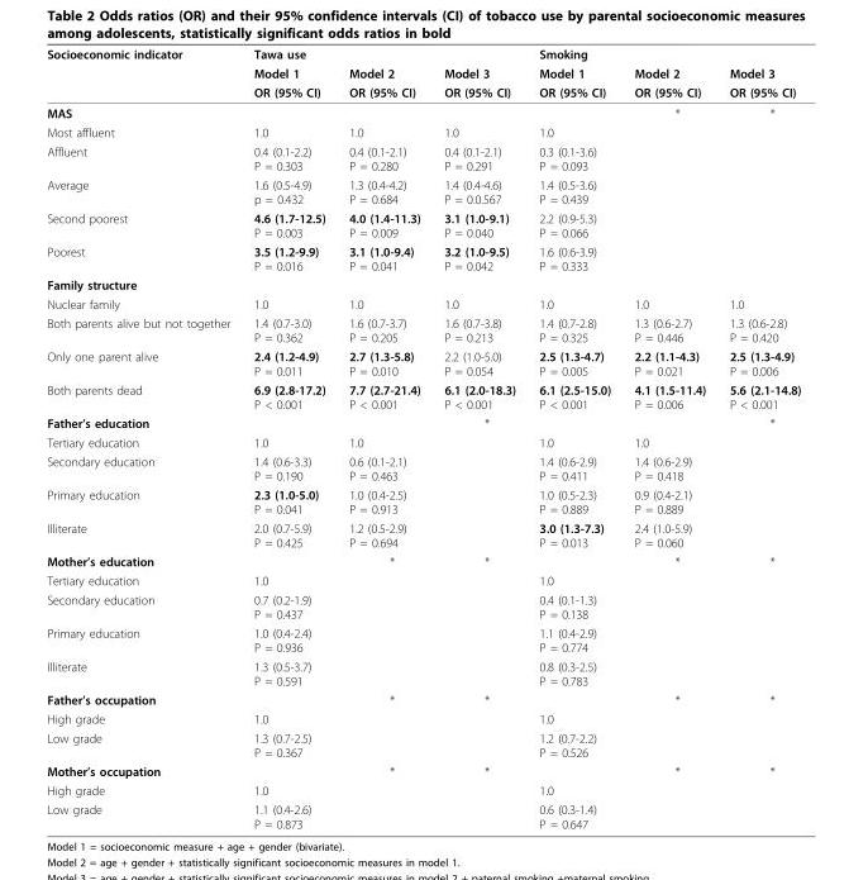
<table><thead><tr><td rowspan="3">Socioeconomic indicator</td><td colspan="2">Tawa use</td><td rowspan="3">Model 3 OR (95% CI)</td><td colspan="2">Smoking</td><td rowspan="3">Model 3 OR (95% CI)</td></tr><tr><td rowspan="2">Model 1 OR (95% CI)</td><td rowspan="2">Model 2 OR (95% CI)</td><td rowspan="2">Model 1 OR (95% CI)</td><td rowspan="2">Model 2 OR (95% CI)</td></tr><tr></tr></thead><tbody><tr><td>MAS</td><td></td><td></td><td></td><td></td><td>*</td><td>*</td></tr><tr><td>Most affluent</td><td>1.0</td><td>1.0</td><td>1.0</td><td>1.0</td><td></td><td></td></tr><tr><td>Affluent</td><td>0.4 (0.1-2.2) P = 0.303</td><td>0.4 (0.1-2.1) P = 0.280</td><td>0.4 (0.1-2.1) P = 0.291</td><td>0.3 (0.1-3.6) P = 0.093</td><td></td><td></td></tr><tr><td>Average</td><td>1.6 (0.5-4.9) p = 0.432</td><td>1.3 (0.4-4.2) P = 0.684</td><td>1.4 (0.4-4.6) P = 0.0.567</td><td>1.4 (0.5-3.6) P = 0.439</td><td></td><td></td></tr><tr><td>Second poorest</td><td>4.6 (1.7-12.5) P = 0.003</td><td>4.0 (1.4-11.3) P = 0.009</td><td>3.1 (1.0-9.1) P = 0.040</td><td>2.2 (0.9-5.3) P = 0.066</td><td></td><td></td></tr><tr><td>Poorest</td><td>3.5 (1.2-9.9) P = 0.016</td><td>3.1 (1.0-9.4) P = 0.041</td><td>3.2 (1.0-9.5) P = 0.042</td><td>1.6 (0.6-3.9) P = 0.333</td><td></td><td></td></tr><tr><td colspan="7">Family structure</td></tr><tr><td>Nuclear family</td><td>1.0</td><td>1.0</td><td>1.0</td><td>1.0</td><td>1.0</td><td>1.0</td></tr><tr><td>Both parents alive but not together</td><td>1.4 (0.7-3.0) P = 0.362</td><td>1.6 (0.7-3.7) P = 0.205</td><td>1.6 (0.7-3.8) P = 0.213</td><td>1.4 (0.7-2.8) P = 0.325</td><td>1.3 (0.6-2.7) P = 0.446</td><td>1.3 (0.6-2.8) P = 0.420</td></tr><tr><td>Only one parent alive</td><td>2.4 (1.2-4.9) P = 0.011</td><td>2.7 (1.3-5.8) P = 0.010</td><td>2.2 (1.0-5.0) P = 0.054</td><td>2.5 (1.3-4.7) P = 0.005</td><td>2.2 (1.1-4.3) P = 0.021</td><td>2.5 (1.3-4.9) P = 0.006</td></tr><tr><td>Both parents dead</td><td>6.9 (2.8-17.2) P &lt; 0.001</td><td>7.7 (2.7-21.4) P &lt; 0.001</td><td>6.1 (2.0-18.3) P &lt; 0.001</td><td>6.1 (2.5-15.0) P &lt; 0.001</td><td>4.1 (1.5-11.4) P = 0.006</td><td>5.6 (2.1-14.8) P &lt; 0.001</td></tr><tr><td>Father’s education</td><td></td><td></td><td>*</td><td></td><td></td><td>*</td></tr><tr><td>Tertiary education</td><td>1.0</td><td>1.0</td><td></td><td>1.0</td><td>1.0</td><td></td></tr><tr><td>Secondary education</td><td>1.4 (0.6-3.3) P = 0.190</td><td>0.6 (0.1-2.1) P = 0.463</td><td></td><td>1.4 (0.6-2.9) P = 0.411</td><td>1.4 (0.6-2.9) P = 0.418</td><td></td></tr><tr><td>Primary education</td><td>2.3 (1.0-5.0) P = 0.041</td><td>1.0 (0.4-2.5) P = 0.913</td><td></td><td>1.0 (0.5-2.3) P = 0.889</td><td>0.9 (0.4-2.1) P = 0.889</td><td></td></tr><tr><td>Illiterate</td><td>2.0 (0.7-5.9) P = 0.425</td><td>1.2 (0.5-2.9) P = 0.694</td><td></td><td>3.0 (1.3-7.3) P = 0.013</td><td>2.4 (1.0-5.9) P = 0.060</td><td></td></tr><tr><td>Mother’s education</td><td></td><td>*</td><td>*</td><td></td><td>*</td><td>*</td></tr><tr><td>Tertiary education</td><td>1.0</td><td></td><td></td><td>1.0</td><td></td><td></td></tr><tr><td>Secondary education</td><td>0.7 (0.2-1.9) P = 0.437</td><td></td><td></td><td>0.4 (0.1-1.3) P = 0.138</td><td></td><td></td></tr><tr><td>Primary education</td><td>1.0 (0.4-2.4) P = 0.936</td><td></td><td></td><td>1.1 (0.4-2.9) P = 0.774</td><td></td><td></td></tr><tr><td>Illiterate</td><td>1.3 (0.5-3.7) P = 0.591</td><td></td><td></td><td>0.8 (0.3-2.5) P = 0.783</td><td></td><td></td></tr><tr><td>Father’s occupation</td><td></td><td>*</td><td>*</td><td></td><td>*</td><td>*</td></tr><tr><td>High grade</td><td>1.0</td><td></td><td></td><td>1.0</td><td></td><td></td></tr><tr><td>Low grade</td><td>1.3 (0.7-2.5) P = 0.367</td><td></td><td></td><td>1.2 (0.7-2.2) P = 0.526</td><td></td><td></td></tr><tr><td>Mother’s occupation</td><td></td><td>*</td><td>*</td><td></td><td>*</td><td>*</td></tr><tr><td>High grade</td><td>1.0</td><td></td><td></td><td>1.0</td><td></td><td></td></tr><tr><td>Low grade</td><td>1.1 (0.4-2.6) P = 0.873</td><td></td><td></td><td>0.6 (0.3-1.4) P = 0.647</td><td></td><td></td></tr></tbody></table>